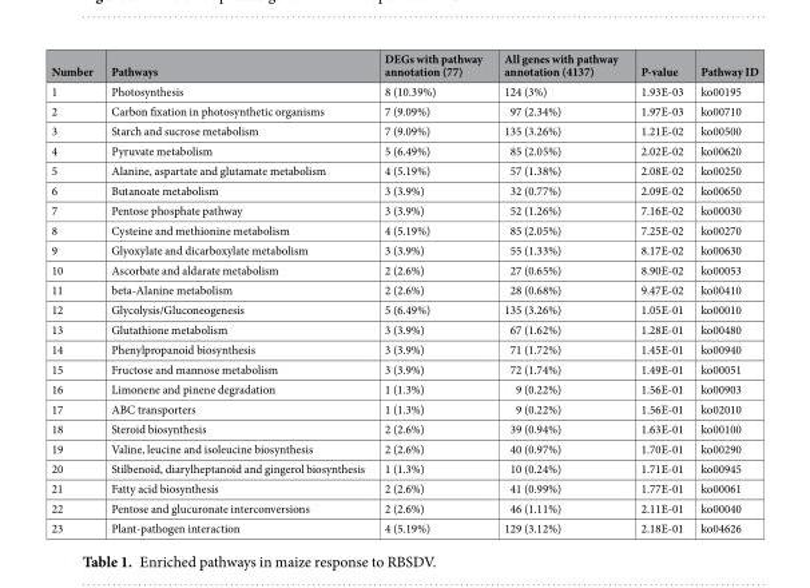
<table><thead><tr><td>Number</td><td>Pathways</td><td>DEGs with pathway annotation (77)</td><td>All genes with pathway annotation (4137)</td><td>P-value</td><td>Pathway ID</td></tr></thead><tbody><tr><td>1</td><td>Photosynthesis</td><td>8 (10.39%)</td><td>124 (3%)</td><td>1.93E-03</td><td>ko00195</td></tr><tr><td>2</td><td>Carbon fixation in photosynthetic organisms</td><td>7 (9.09%)</td><td>97 (2.34%)</td><td>1.97E-03</td><td>ko00710</td></tr><tr><td>3</td><td>Starch and sucrose metabolism</td><td>7 (9.09%)</td><td>135 (3.26%)</td><td>1.21E-02</td><td>ko00500</td></tr><tr><td>4</td><td>Pyruvate metabolism</td><td>5 (6.49%)</td><td>85 (2.05%)</td><td>2.02E-02</td><td>ko00620</td></tr><tr><td>5</td><td>Alanine, aspartate and glutamate metabolism</td><td>4 (5.19%)</td><td>57 (1.38%)</td><td>2.08E-02</td><td>ko00250</td></tr><tr><td>6</td><td>Butanoate metabolism</td><td>3 (3.9%)</td><td>32 (0.77%)</td><td>2.09E-02</td><td>ko00650</td></tr><tr><td>7</td><td>Pentose phosphate pathway</td><td>3 (3.9%)</td><td>52 (1.26%)</td><td>7.16E-02</td><td>ko00030</td></tr><tr><td>8</td><td>Cysteine and methionine metabolism</td><td>4 (5.19%)</td><td>85 (2.05%)</td><td>7.25E-02</td><td>ko00270</td></tr><tr><td>9</td><td>Glyoxylate and dicarboxylate metabolism</td><td>3 (3.9%)</td><td>55 (1.33%)</td><td>8.17E-02</td><td>ko00630</td></tr><tr><td>10</td><td>Ascorbate and aldarate metabolism</td><td>2 (2.6%)</td><td>27 (0.65%)</td><td>8.90E-02</td><td>ko00053</td></tr><tr><td>11</td><td>beta-Alanine metabolism</td><td>2 (2.6%)</td><td>28 (0.68%)</td><td>9.47E-02</td><td>ko00410</td></tr><tr><td>12</td><td>Glycolysis/Gluconeogenesis</td><td>5 (6.49%)</td><td>135 (3.26%)</td><td>1.05E-01</td><td>ko00010</td></tr><tr><td>13</td><td>Glutathione metabolism</td><td>3 (3.9%)</td><td>67 (1.62%)</td><td>1.28E-01</td><td>ko00480</td></tr><tr><td>14</td><td>Phenylpropanoid biosynthesis</td><td>3 (3.9%)</td><td>71 (1.72%)</td><td>1.45E-01</td><td>ko00940</td></tr><tr><td>15</td><td>Fructose and mannose metabolism</td><td>3 (3.9%)</td><td>72 (1.74%)</td><td>1.49E-01</td><td>ko00051</td></tr><tr><td>16</td><td>Limonene and pinene degradation</td><td>1 (1.3%)</td><td>9 (0.22%)</td><td>1.56E-01</td><td>ko00903</td></tr><tr><td>17</td><td>ABC transporters</td><td>1 (1.3%)</td><td>9 (0.22%)</td><td>1.56E-01</td><td>ko02010</td></tr><tr><td>18</td><td>Steroid biosynthesis</td><td>2 (2.6%)</td><td>39 (0.94%)</td><td>1.63E-01</td><td>ko00100</td></tr><tr><td>19</td><td>Valine, leucine and isoleucine biosynthesis</td><td>2 (2.6%)</td><td>40 (0.97%)</td><td>1.70E-01</td><td>ko00290</td></tr><tr><td>20</td><td>Stilbenoid, diarylheptanoid and gingerol biosynthesis</td><td>1 (1.3%)</td><td>10 (0.24%)</td><td>1.71E-01</td><td>ko00945</td></tr><tr><td>21</td><td>Fatty acid biosynthesis</td><td>2 (2.6%)</td><td>41 (0.99%)</td><td>1.77E-01</td><td>ko00061</td></tr><tr><td>22</td><td>Pentose and glucuronate interconversions</td><td>2 (2.6%)</td><td>46 (1.11%)</td><td>2.11E-01</td><td>ko00040</td></tr><tr><td>23</td><td>Plant-pathogen interaction</td><td>4 (5.19%)</td><td>129 (3.12%)</td><td>2.18E-01</td><td>ko04626</td></tr></tbody></table>